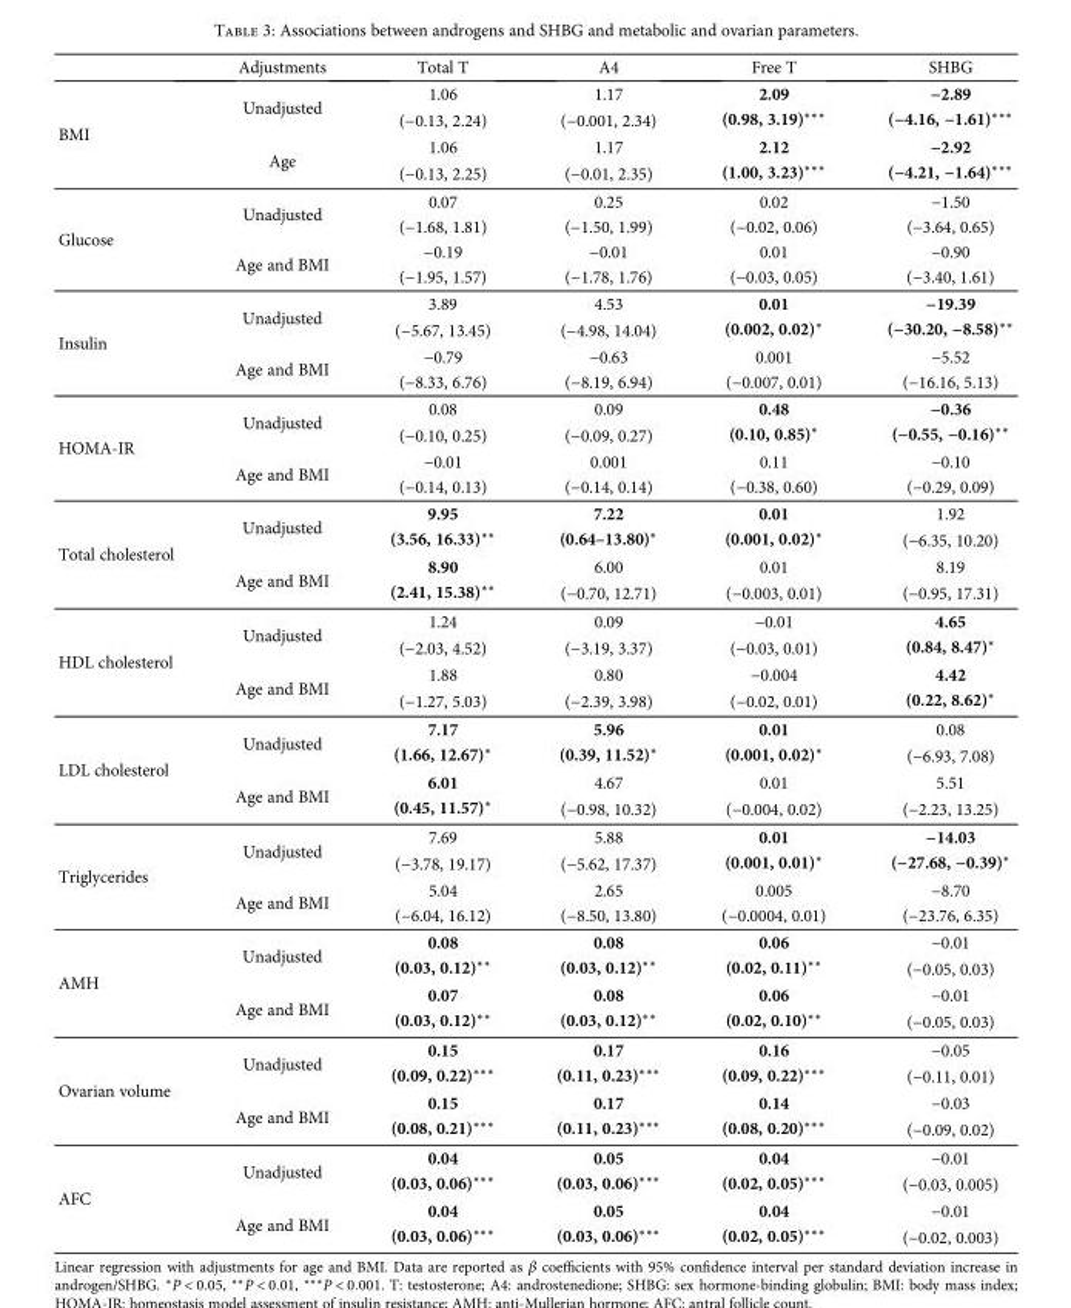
<table><thead><tr><td></td><td>Adjustments</td><td>Total T</td><td>A4</td><td>Free T</td><td>SHBG</td></tr></thead><tbody><tr><td rowspan="4">BMI</td><td rowspan="2">Unadjusted</td><td>1.06</td><td>1.17</td><td>2.09</td><td>−2.89</td></tr><tr><td>(−0.13, 2.24)</td><td>(−0.001, 2.34)</td><td>(0.98, 3.19)∗∗∗</td><td>(−4.16, −1.61)∗∗∗</td></tr><tr><td rowspan="2">Age</td><td>1.06</td><td>1.17</td><td>2.12</td><td>−2.92</td></tr><tr><td>(−0.13, 2.25)</td><td>(−0.01, 2.35)</td><td>(1.00, 3.23)∗∗∗</td><td>(−4.21, −1.64)∗∗∗</td></tr><tr><td rowspan="4">Glucose</td><td rowspan="2">Unadjusted</td><td>0.07</td><td>0.25</td><td>0.02</td><td>−1.50</td></tr><tr><td>(−1.68, 1.81)</td><td>(−1.50, 1.99)</td><td>(−0.02, 0.06)</td><td>(−3.64, 0.65)</td></tr><tr><td rowspan="2">Age and BMI</td><td>−0.19</td><td>−0.01</td><td>0.01</td><td>−0.90</td></tr><tr><td>(−1.95, 1.57)</td><td>(−1.78, 1.76)</td><td>(−0.03, 0.05)</td><td>(−3.40, 1.61)</td></tr><tr><td rowspan="4">Insulin</td><td rowspan="2">Unadjusted</td><td>3.89</td><td>4.53</td><td>0.01</td><td>−19.39</td></tr><tr><td>(−5.67, 13.45)</td><td>(−4.98, 14.04)</td><td>(0.002, 0.02)∗</td><td>(−30.20, −8.58)∗∗</td></tr><tr><td rowspan="2">Age and BMI</td><td>−0.79</td><td>−0.63</td><td>0.001</td><td>−5.52</td></tr><tr><td>(−8.33, 6.76)</td><td>(−8.19, 6.94)</td><td>(−0.007, 0.01)</td><td>(−16.16, 5.13)</td></tr><tr><td rowspan="4">HOMA-IR</td><td rowspan="2">Unadjusted</td><td>0.08</td><td>0.09</td><td>0.48</td><td>−0.36</td></tr><tr><td>(−0.10, 0.25)</td><td>(−0.09, 0.27)</td><td>(0.10, 0.85)∗</td><td>(−0.55, −0.16)∗∗</td></tr><tr><td rowspan="2">Age and BMI</td><td>−0.01</td><td>0.001</td><td>0.11</td><td>−0.10</td></tr><tr><td>(−0.14, 0.13)</td><td>(−0.14, 0.14)</td><td>(−0.38, 0.60)</td><td>(−0.29, 0.09)</td></tr><tr><td rowspan="4">Total cholesterol</td><td rowspan="2">Unadjusted</td><td>9.95</td><td>7.22</td><td>0.01</td><td>1.92</td></tr><tr><td>(3.56, 16.33)∗∗</td><td>(0.64–13.80)∗</td><td>(0.001, 0.02)∗</td><td>(−6.35, 10.20)</td></tr><tr><td rowspan="2">Age and BMI</td><td>8.90</td><td>6.00</td><td>0.01</td><td>8.19</td></tr><tr><td>(2.41, 15.38)∗∗</td><td>(−0.70, 12.71)</td><td>(−0.003, 0.01)</td><td>(−0.95, 17.31)</td></tr><tr><td rowspan="4">HDL cholesterol</td><td rowspan="2">Unadjusted</td><td>1.24</td><td>0.09</td><td>−0.01</td><td>4.65</td></tr><tr><td>(−2.03, 4.52)</td><td>(−3.19, 3.37)</td><td>(−0.03, 0.01)</td><td>(0.84, 8.47)∗</td></tr><tr><td rowspan="2">Age and BMI</td><td>1.88</td><td>0.80</td><td>−0.004</td><td>4.42</td></tr><tr><td>(−1.27, 5.03)</td><td>(−2.39, 3.98)</td><td>(−0.02, 0.01)</td><td>(0.22, 8.62)∗</td></tr><tr><td rowspan="4">LDL cholesterol</td><td rowspan="2">Unadjusted</td><td>7.17</td><td>5.96</td><td>0.01</td><td>0.08</td></tr><tr><td>(1.66, 12.67)∗</td><td>(0.39, 11.52)∗</td><td>(0.001, 0.02)∗</td><td>(−6.93, 7.08)</td></tr><tr><td rowspan="2">Age and BMI</td><td>6.01</td><td>4.67</td><td>0.01</td><td>5.51</td></tr><tr><td>(0.45, 11.57)∗</td><td>(−0.98, 10.32)</td><td>(−0.004, 0.02)</td><td>(−2.23, 13.25)</td></tr><tr><td rowspan="4">Triglycerides</td><td rowspan="2">Unadjusted</td><td>7.69</td><td>5.88</td><td>0.01</td><td>−14.03</td></tr><tr><td>(−3.78, 19.17)</td><td>(−5.62, 17.37)</td><td>(0.001, 0.01)∗</td><td>(−27.68, −0.39)∗</td></tr><tr><td rowspan="2">Age and BMI</td><td>5.04</td><td>2.65</td><td>0.005</td><td>−8.70</td></tr><tr><td>(−6.04, 16.12)</td><td>(−8.50, 13.80)</td><td>(−0.0004, 0.01)</td><td>(−23.76, 6.35)</td></tr><tr><td rowspan="4">AMH</td><td rowspan="2">Unadjusted</td><td>0.08</td><td>0.08</td><td>0.06</td><td>−0.01</td></tr><tr><td>(0.03, 0.12)∗∗</td><td>(0.03, 0.12)∗∗</td><td>(0.02, 0.11)∗∗</td><td>(−0.05, 0.03)</td></tr><tr><td rowspan="2">Age and BMI</td><td>0.07</td><td>0.08</td><td>0.06</td><td>−0.01</td></tr><tr><td>(0.03, 0.12)∗∗</td><td>(0.03, 0.12)∗∗</td><td>(0.02, 0.10)∗∗</td><td>(−0.05, 0.03)</td></tr><tr><td rowspan="4">Ovarian volume</td><td rowspan="2">Unadjusted</td><td>0.15</td><td>0.17</td><td>0.16</td><td>−0.05</td></tr><tr><td>(0.09, 0.22)∗∗∗</td><td>(0.11, 0.23)∗∗∗</td><td>(0.09, 0.22)∗∗∗</td><td>(−0.11, 0.01)</td></tr><tr><td rowspan="2">Age and BMI</td><td>0.15</td><td>0.17</td><td>0.14</td><td>−0.03</td></tr><tr><td>(0.08, 0.21)∗∗∗</td><td>(0.11, 0.23)∗∗∗</td><td>(0.08, 0.20)∗∗∗</td><td>(−0.09, 0.02)</td></tr><tr><td rowspan="4">AFC</td><td rowspan="2">Unadjusted</td><td>0.04</td><td>0.05</td><td>0.04</td><td>−0.01</td></tr><tr><td>(0.03, 0.06)∗∗∗</td><td>(0.03, 0.06)∗∗∗</td><td>(0.02, 0.05)∗∗∗</td><td>(−0.03, 0.005)</td></tr><tr><td rowspan="2">Age and BMI</td><td>0.04</td><td>0.05</td><td>0.04</td><td>−0.01</td></tr><tr><td>(0.03, 0.06)∗∗∗</td><td>(0.03, 0.06)∗∗∗</td><td>(0.02, 0.05)∗∗∗</td><td>(−0.02, 0.003)</td></tr></tbody></table>